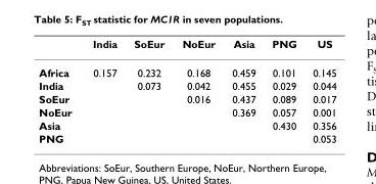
<table><thead><tr><td></td><td>India</td><td>SoEur</td><td>NoEur</td><td>Asia</td><td>PNG</td><td>US</td></tr></thead><tbody><tr><td>Africa</td><td>0.157</td><td>0.232</td><td>0.168</td><td>0.459</td><td>0.101</td><td>0.145</td></tr><tr><td>India</td><td></td><td>0.073</td><td>0.042</td><td>0.455</td><td>0.029</td><td>0.044</td></tr><tr><td>SoEur</td><td></td><td></td><td>0.016</td><td>0.437</td><td>0.089</td><td>0.017</td></tr><tr><td>NoEur</td><td></td><td></td><td></td><td>0.369</td><td>0.057</td><td>0.001</td></tr><tr><td>Asia</td><td></td><td></td><td></td><td></td><td>0.430</td><td>0.356</td></tr><tr><td>PNG</td><td></td><td></td><td></td><td></td><td></td><td>0.053</td></tr></tbody></table>